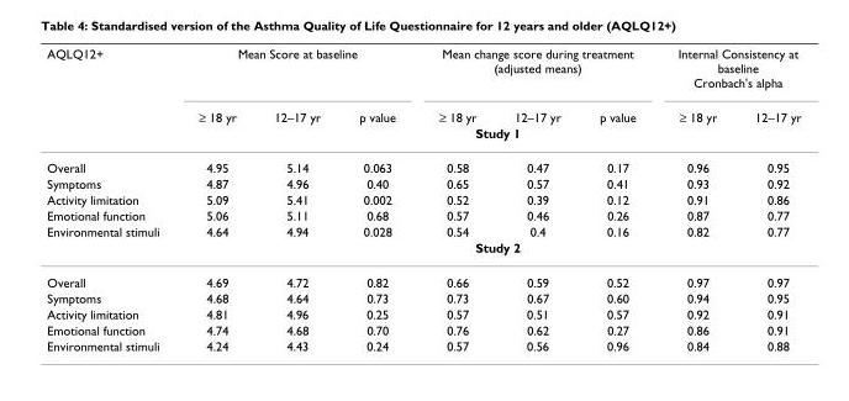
<table><thead><tr><td rowspan="3">AQLQ12+</td><td colspan="3">Mean Score at baseline</td><td colspan="3">Mean change score during treatment (adjusted means)</td><td colspan="2">Internal Consistency at baseline Cronbach&#x27;s alpha</td></tr><tr><td>≥ 18 yr</td><td>12–17 yr</td><td>p value</td><td>≥ 18 yr</td><td>12–17 yr</td><td>p value</td><td>≥ 18 yr</td><td>12–17 yr</td></tr><tr><td colspan="8">Study 1</td></tr></thead><tbody><tr><td>Overall</td><td>4.95</td><td>5.14</td><td>0.063</td><td>0.58</td><td>0.47</td><td>0.17</td><td>0.96</td><td>0.95</td></tr><tr><td>Symptoms</td><td>4.87</td><td>4.96</td><td>0.40</td><td>0.65</td><td>0.57</td><td>0.41</td><td>0.93</td><td>0.92</td></tr><tr><td>Activity limitation</td><td>5.09</td><td>5.41</td><td>0.002</td><td>0.52</td><td>0.39</td><td>0.12</td><td>0.91</td><td>0.86</td></tr><tr><td>Emotional function</td><td>5.06</td><td>5.11</td><td>0.68</td><td>0.57</td><td>0.46</td><td>0.26</td><td>0.87</td><td>0.77</td></tr><tr><td rowspan="2">Environmental stimuli</td><td>4.64</td><td>4.94</td><td>0.028</td><td>0.54</td><td>0.4</td><td>0.16</td><td>0.82</td><td>0.77</td></tr><tr><td colspan="8">Study 2</td></tr><tr><td>Overall</td><td>4.69</td><td>4.72</td><td>0.82</td><td>0.66</td><td>0.59</td><td>0.52</td><td>0.97</td><td>0.97</td></tr><tr><td>Symptoms</td><td>4.68</td><td>4.64</td><td>0.73</td><td>0.73</td><td>0.67</td><td>0.60</td><td>0.94</td><td>0.95</td></tr><tr><td>Activity limitation</td><td>4.81</td><td>4.96</td><td>0.25</td><td>0.57</td><td>0.51</td><td>0.57</td><td>0.92</td><td>0.91</td></tr><tr><td>Emotional function</td><td>4.74</td><td>4.68</td><td>0.70</td><td>0.76</td><td>0.62</td><td>0.27</td><td>0.86</td><td>0.91</td></tr><tr><td>Environmental stimuli</td><td>4.24</td><td>4.43</td><td>0.24</td><td>0.57</td><td>0.56</td><td>0.96</td><td>0.84</td><td>0.88</td></tr></tbody></table>